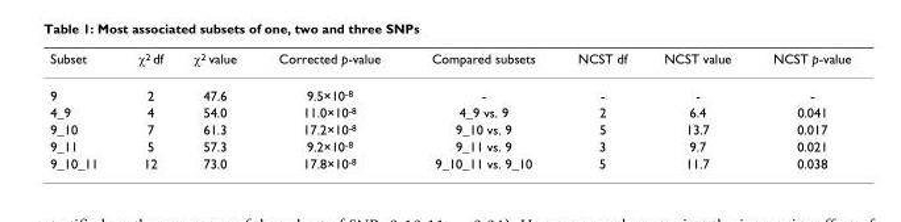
<table><thead><tr><td>Subset</td><td>χ<sup>2</sup> df</td><td>χ<sup>2</sup> value</td><td>Corrected p-value</td><td>Compared subsets</td><td>NCST df</td><td>NCST value</td><td>NCST p-value</td></tr></thead><tbody><tr><td>9</td><td>2</td><td>47.6</td><td>9.5×10<sup>-8</sup></td><td>-</td><td>-</td><td>-</td><td>-</td></tr><tr><td>4_9</td><td>4</td><td>54.0</td><td>11.0×10<sup>-8</sup></td><td>4_9 vs. 9</td><td>2</td><td>6.4</td><td>0.041</td></tr><tr><td>9_10</td><td>7</td><td>61.3</td><td>17.2×10<sup>-8</sup></td><td>9_10 vs. 9</td><td>5</td><td>13.7</td><td>0.017</td></tr><tr><td>9_11</td><td>5</td><td>57.3</td><td>9.2×10<sup>-8</sup></td><td>9_11 vs. 9</td><td>3</td><td>9.7</td><td>0.021</td></tr><tr><td>9_10_11</td><td>12</td><td>73.0</td><td>17.8×10<sup>-8</sup></td><td>9_10_11 vs. 9_10</td><td>5</td><td>11.7</td><td>0.038</td></tr></tbody></table>